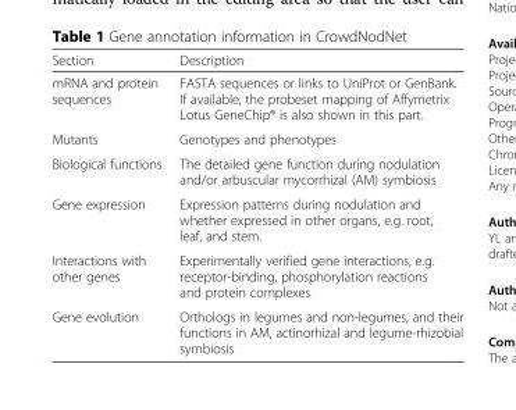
<table><thead><tr><td>Section</td><td>Description</td></tr></thead><tbody><tr><td>mRNA and protein sequences</td><td>FASTA sequences or links to UniProt or GenBank. If available, the probeset mapping of Affymetrix Lotus GeneChip® is also shown in this part.</td></tr><tr><td>Mutants</td><td>Genotypes and phenotypes</td></tr><tr><td>Biological functions</td><td>The detailed gene function during nodulation and/or arbuscular mycorrhizal (AM) symbiosis</td></tr><tr><td>Gene expression</td><td>Expression patterns during nodulation and whether expressed in other organs, e.g. root, leaf, and stem.</td></tr><tr><td>Interactions with other genes</td><td>Experimentally verified gene interactions, e.g. receptor-binding, phosphorylation reactions and protein complexes</td></tr><tr><td>Gene evolution</td><td>Orthologs in legumes and non-legumes, and their functions in AM, actinorhizal and legume-rhizobial symbiosis</td></tr></tbody></table>